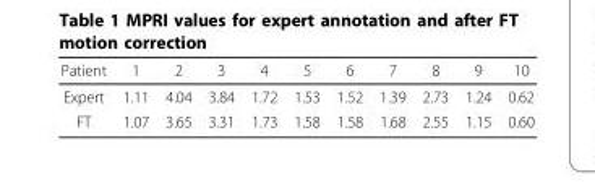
<table><thead><tr><td>Patient</td><td>1</td><td>2</td><td>3</td><td>4</td><td>5</td><td>6</td><td>7</td><td>8</td><td>9</td><td>10</td></tr></thead><tbody><tr><td>Expert</td><td>1.11</td><td>4.04</td><td>3.84</td><td>1.72</td><td>1.53</td><td>1.52</td><td>1.39</td><td>2.73</td><td>1.24</td><td>0.62</td></tr><tr><td>FT</td><td>1.07</td><td>3.65</td><td>3.31</td><td>1.73</td><td>1.58</td><td>1.58</td><td>1.68</td><td>2.55</td><td>1.15</td><td>0.60</td></tr></tbody></table>